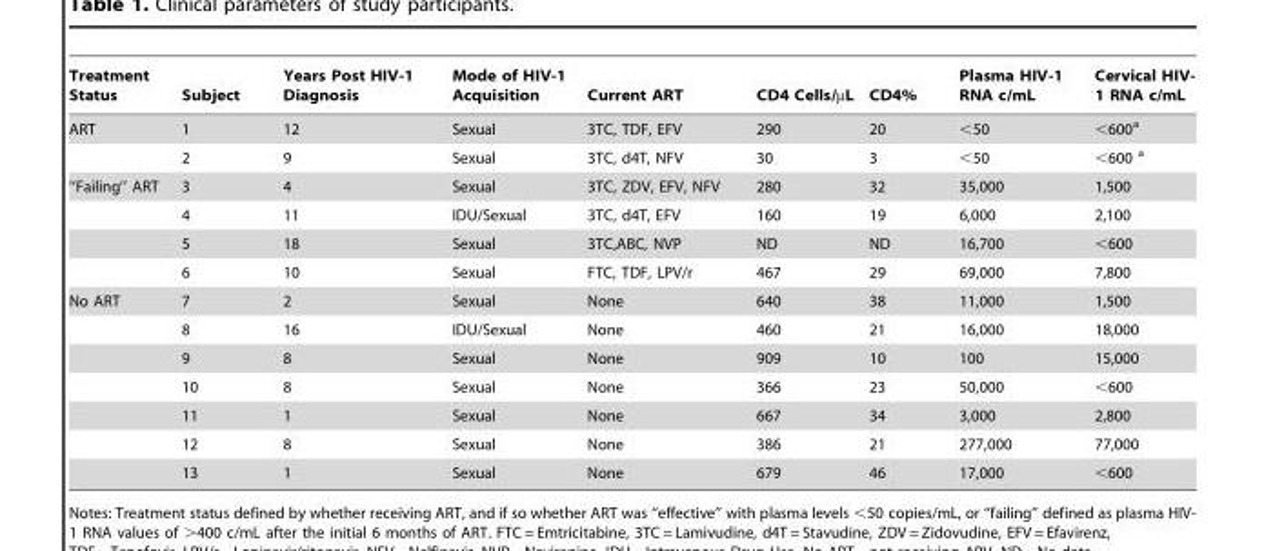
<table><thead><tr><td>Treatment Status</td><td>Subject</td><td>Years Post HIV-1 Diagnosis</td><td>Mode of HIV-1 Acquisition</td><td>Current ART</td><td>CD4 Cells/µL</td><td>CD4%</td><td>Plasma HIV-1 RNA c/mL</td><td>Cervical HIV- 1 RNA c/mL</td></tr></thead><tbody><tr><td rowspan="2">ART</td><td>1</td><td>12</td><td>Sexual</td><td>3TC, TDF, EFV</td><td>290</td><td>20</td><td>&lt;50</td><td>&lt;600<sup>a</sup></td></tr><tr><td>2</td><td>9</td><td>Sexual</td><td>3TC, d4T, NFV</td><td>30</td><td>3</td><td>&lt;50</td><td>&lt;600 a</td></tr><tr><td rowspan="4">‘‘Failing’’ ART</td><td>3</td><td>4</td><td>Sexual</td><td>3TC, ZDV, EFV, NFV</td><td>280</td><td>32</td><td>35,000</td><td>1,500</td></tr><tr><td>4</td><td>11</td><td>IDU/Sexual</td><td>3TC, d4T, EFV</td><td>160</td><td>19</td><td>6,000</td><td>2,100</td></tr><tr><td>5</td><td>18</td><td>Sexual</td><td>3TC,ABC, NVP</td><td>ND</td><td>ND</td><td>16,700</td><td>&lt;600</td></tr><tr><td>6</td><td>10</td><td>Sexual</td><td>FTC, TDF, LPV/r</td><td>467</td><td>29</td><td>69,000</td><td>7,800</td></tr><tr><td rowspan="7">No ART</td><td>7</td><td>2</td><td>Sexual</td><td>None</td><td>640</td><td>38</td><td>11,000</td><td>1,500</td></tr><tr><td>8</td><td>16</td><td>IDU/Sexual</td><td>None</td><td>460</td><td>21</td><td>16,000</td><td>18,000</td></tr><tr><td>9</td><td>8</td><td>Sexual</td><td>None</td><td>909</td><td>10</td><td>100</td><td>15,000</td></tr><tr><td>10</td><td>8</td><td>Sexual</td><td>None</td><td>366</td><td>23</td><td>50,000</td><td>&lt;600</td></tr><tr><td>11</td><td>1</td><td>Sexual</td><td>None</td><td>667</td><td>34</td><td>3,000</td><td>2,800</td></tr><tr><td>12</td><td>8</td><td>Sexual</td><td>None</td><td>386</td><td>21</td><td>277,000</td><td>77,000</td></tr><tr><td>13</td><td>1</td><td>Sexual</td><td>None</td><td>679</td><td>46</td><td>17,000</td><td>&lt;600</td></tr></tbody></table>